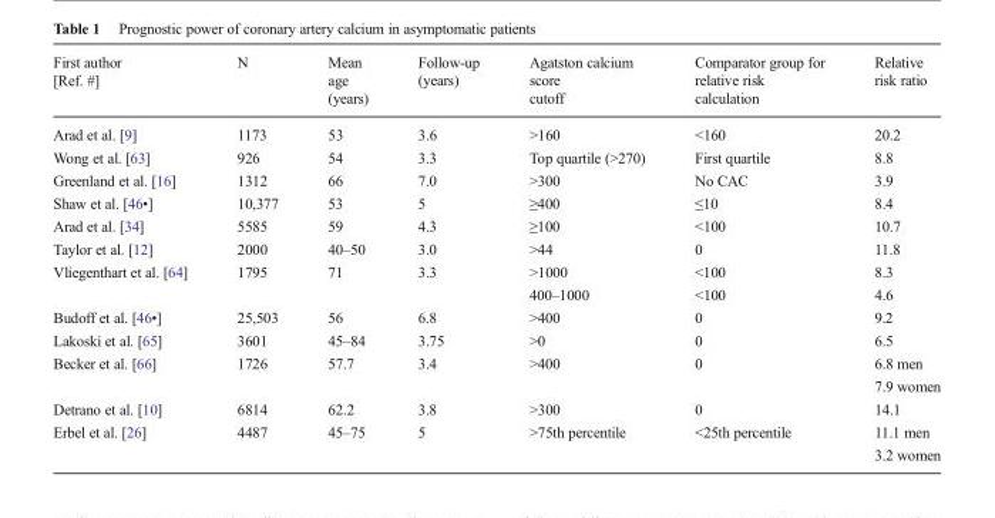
<table><thead><tr><td>First author [Ref. #]</td><td>N</td><td>Mean age (years)</td><td>Follow-up (years)</td><td>Agatston calcium score cutoff</td><td>Comparator group for relative risk calculation</td><td>Relative risk ratio</td></tr></thead><tbody><tr><td>Arad et al. [9]</td><td>1173</td><td>53</td><td>3.6</td><td>&gt;160</td><td>&lt;160</td><td>20.2</td></tr><tr><td>Wong et al. [63]</td><td>926</td><td>54</td><td>3.3</td><td>Top quartile (&gt;270)</td><td>First quartile</td><td>8.8</td></tr><tr><td>Greenland et al. [16]</td><td>1312</td><td>66</td><td>7.0</td><td>&gt;300</td><td>No CAC</td><td>3.9</td></tr><tr><td>Shaw et al. [46•]</td><td>10,377</td><td>53</td><td>5</td><td>≥400</td><td>≤10</td><td>8.4</td></tr><tr><td>Arad et al. [34]</td><td>5585</td><td>59</td><td>4.3</td><td>≥100</td><td>&lt;100</td><td>10.7</td></tr><tr><td>Taylor et al. [12]</td><td>2000</td><td>40–50</td><td>3.0</td><td>&gt;44</td><td>0</td><td>11.8</td></tr><tr><td rowspan="2">Vliegenthart et al. [64]</td><td rowspan="2">1795</td><td rowspan="2">71</td><td rowspan="2">3.3</td><td>&gt;1000</td><td>&lt;100</td><td>8.3</td></tr><tr><td>400–1000</td><td>&lt;100</td><td>4.6</td></tr><tr><td>Budoff et al. [46•]</td><td>25,503</td><td>56</td><td>6.8</td><td>&gt;400</td><td>0</td><td>9.2</td></tr><tr><td>Lakoski et al. [65]</td><td>3601</td><td>45–84</td><td>3.75</td><td>&gt;0</td><td>0</td><td>6.5</td></tr><tr><td rowspan="2">Becker et al. [66]</td><td rowspan="2">1726</td><td rowspan="2">57.7</td><td rowspan="2">3.4</td><td rowspan="2">&gt;400</td><td rowspan="2">0</td><td>6.8 men</td></tr><tr><td>7.9 women</td></tr><tr><td>Detrano et al. [10]</td><td>6814</td><td>62.2</td><td>3.8</td><td>&gt;300</td><td>0</td><td>14.1</td></tr><tr><td rowspan="2">Erbel et al. [26]</td><td rowspan="2">4487</td><td rowspan="2">45–75</td><td rowspan="2">5</td><td rowspan="2">&gt;75th percentile</td><td rowspan="2">&lt;25th percentile</td><td>11.1 men</td></tr><tr><td>3.2 women</td></tr></tbody></table>